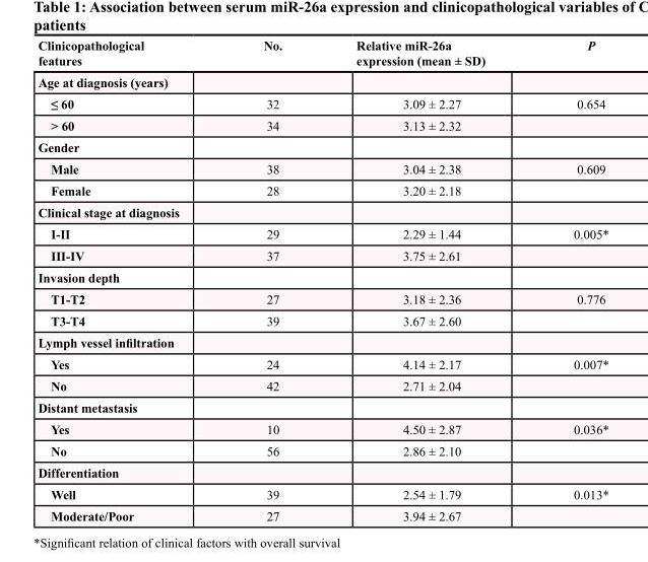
<table><thead><tr><td>Clinicopathological features</td><td>No.</td><td>Relative miR-26a expression (mean ± SD)</td><td>P</td></tr></thead><tbody><tr><td colspan="4">Age at diagnosis (years)</td></tr><tr><td>≤ 60</td><td>32</td><td>3.09 ± 2.27</td><td>0.654</td></tr><tr><td>&gt; 60</td><td>34</td><td>3.13 ± 2.32</td><td></td></tr><tr><td colspan="4">Gender</td></tr><tr><td>Male</td><td>38</td><td>3.04 ± 2.38</td><td>0.609</td></tr><tr><td>Female</td><td>28</td><td>3.20 ± 2.18</td><td></td></tr><tr><td colspan="4">Clinical stage at diagnosis</td></tr><tr><td>I-II</td><td>29</td><td>2.29 ± 1.44</td><td>0.005*</td></tr><tr><td>III-IV</td><td>37</td><td>3.75 ± 2.61</td><td></td></tr><tr><td colspan="4">Invasion depth</td></tr><tr><td>T1-T2</td><td>27</td><td>3.18 ± 2.36</td><td>0.776</td></tr><tr><td>T3-T4</td><td>39</td><td>3.67 ± 2.60</td><td></td></tr><tr><td colspan="4">Lymph vessel infiltration</td></tr><tr><td>Yes</td><td>24</td><td>4.14 ± 2.17</td><td>0.007*</td></tr><tr><td>No</td><td>42</td><td>2.71 ± 2.04</td><td></td></tr><tr><td colspan="4">Distant metastasis</td></tr><tr><td>Yes</td><td>10</td><td>4.50 ± 2.87</td><td>0.036*</td></tr><tr><td>No</td><td>56</td><td>2.86 ± 2.10</td><td></td></tr><tr><td colspan="4">Differentiation</td></tr><tr><td>Well</td><td>39</td><td>2.54 ± 1.79</td><td>0.013*</td></tr><tr><td>Moderate/Poor</td><td>27</td><td>3.94 ± 2.67</td><td></td></tr></tbody></table>